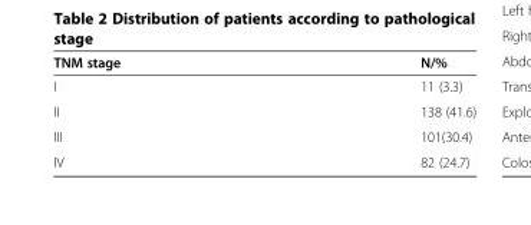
<table><thead><tr><td>TNM stage</td><td>N/%</td></tr></thead><tbody><tr><td>I</td><td>11 (3.3)</td></tr><tr><td>II</td><td>138 (41.6)</td></tr><tr><td>III</td><td>101(30.4)</td></tr><tr><td>IV</td><td>82 (24.7)</td></tr></tbody></table>